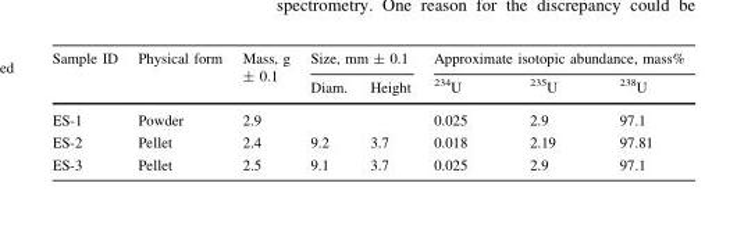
<table><thead><tr><td rowspan="2">Sample ID</td><td rowspan="2">Physical form</td><td rowspan="2">Mass, g ± 0.1</td><td colspan="2">Size, mm ± 0.1</td><td colspan="3">Approximate isotopic abundance, mass%</td></tr><tr><td>Diam.</td><td>Height</td><td><sup>234</sup>U</td><td><sup>235</sup>U</td><td><sup>238</sup>U</td></tr></thead><tbody><tr><td>ES-1</td><td>Powder</td><td>2.9</td><td></td><td></td><td>0.025</td><td>2.9</td><td>97.1</td></tr><tr><td>ES-2</td><td>Pellet</td><td>2.4</td><td>9.2</td><td>3.7</td><td>0.018</td><td>2.19</td><td>97.81</td></tr><tr><td>ES-3</td><td>Pellet</td><td>2.5</td><td>9.1</td><td>3.7</td><td>0.025</td><td>2.9</td><td>97.1</td></tr></tbody></table>